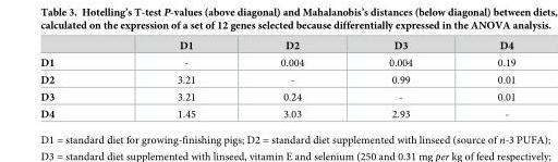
<table><thead><tr><td></td><td>D1</td><td>D2</td><td>D3</td><td>D4</td></tr></thead><tbody><tr><td>D1</td><td>-</td><td>0.004</td><td>0.004</td><td>0.19</td></tr><tr><td>D2</td><td>3.21</td><td>-</td><td>0.99</td><td>0.01</td></tr><tr><td>D3</td><td>3.21</td><td>0.24</td><td>-</td><td>0.01</td></tr><tr><td>D4</td><td>1.45</td><td>3.03</td><td>2.93</td><td>-</td></tr></tbody></table>